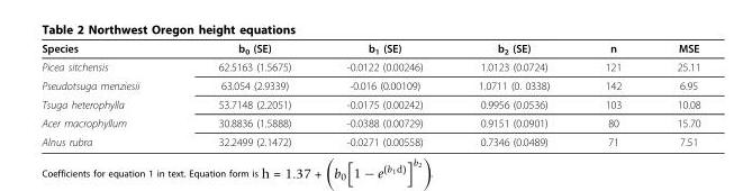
<table><thead><tr><td>Species</td><td>b<sub>0</sub> (SE)</td><td>b<sub>1</sub> (SE)</td><td>b<sub>2</sub> (SE)</td><td>n</td><td>MSE</td></tr></thead><tbody><tr><td>Picea sitchensis</td><td>62.5163 (1.5675)</td><td>-0.0122 (0.00246)</td><td>1.0123 (0.0724)</td><td>121</td><td>25.11</td></tr><tr><td>Pseudotsuga menziesii</td><td>63.054 (2.9339)</td><td>-0.016 (0.00109)</td><td>1.0711 (0. 0338)</td><td>142</td><td>6.95</td></tr><tr><td>Tsuga heterophylla</td><td>53.7148 (2.2051)</td><td>-0.0175 (0.00242)</td><td>0.9956 (0.0536)</td><td>103</td><td>10.08</td></tr><tr><td>Acer macrophyllum</td><td>30.8836 (1.5888)</td><td>-0.0388 (0.00729)</td><td>0.9151 (0.0901)</td><td>80</td><td>15.70</td></tr><tr><td>Alnus rubra</td><td>32.2499 (2.1472)</td><td>-0.0271 (0.00558)</td><td>0.7346 (0.0489)</td><td>71</td><td>7.51</td></tr></tbody></table>